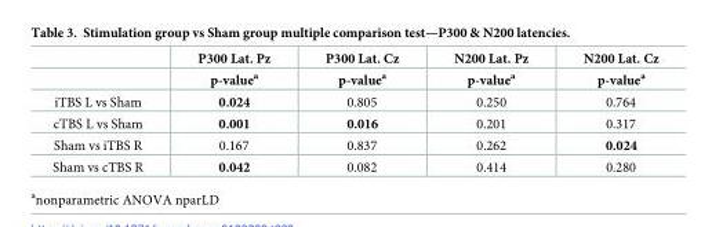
<table><thead><tr><td rowspan="2"></td><td rowspan="2">P300 Lat. Pz p-value<sup>a</sup></td><td rowspan="2">P300 Lat. Cz p-value<sup>a</sup></td><td rowspan="2">N200 Lat. Pz p-value<sup>a</sup></td><td rowspan="2">N200 Lat. Cz p-value<sup>a</sup></td></tr><tr></tr></thead><tbody><tr><td>iTBS L vs Sham</td><td>0.024</td><td>0.805</td><td>0.250</td><td>0.764</td></tr><tr><td>cTBS L vs Sham</td><td>0.001</td><td>0.016</td><td>0.201</td><td>0.317</td></tr><tr><td>Sham vs iTBS R</td><td>0.167</td><td>0.837</td><td>0.262</td><td>0.024</td></tr><tr><td>Sham vs cTBS R</td><td>0.042</td><td>0.082</td><td>0.414</td><td>0.280</td></tr></tbody></table>